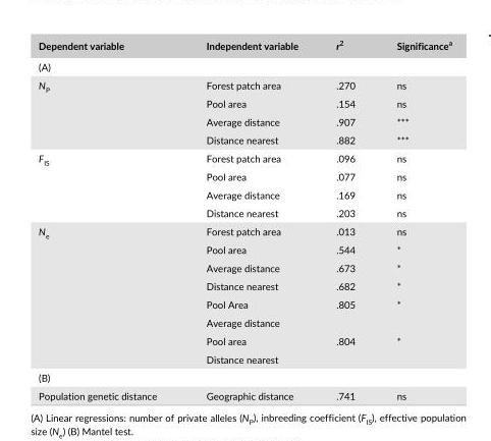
<table><thead><tr><td>Dependent variable</td><td>Independent variable</td><td>r<sup>2</sup></td><td>Significance<sup>a</sup></td></tr></thead><tbody><tr><td colspan="4">(A)</td></tr><tr><td rowspan="4">N<sub>P</sub></td><td>Forest patch area</td><td>.270</td><td>ns</td></tr><tr><td>Pool area</td><td>.154</td><td>ns</td></tr><tr><td>Average distance</td><td>.907</td><td>***</td></tr><tr><td>Distance nearest</td><td>.882</td><td>***</td></tr><tr><td rowspan="4">F<sub>IS</sub></td><td>Forest patch area</td><td>.096</td><td>ns</td></tr><tr><td>Pool area</td><td>.077</td><td>ns</td></tr><tr><td>Average distance</td><td>.169</td><td>ns</td></tr><tr><td>Distance nearest</td><td>.203</td><td>ns</td></tr><tr><td rowspan="8">N<sub>e</sub></td><td>Forest patch area</td><td>.013</td><td>ns</td></tr><tr><td>Pool area</td><td>.544</td><td>*</td></tr><tr><td>Average distance</td><td>.673</td><td>*</td></tr><tr><td>Distance nearest</td><td>.682</td><td>*</td></tr><tr><td>Pool Area</td><td>.805</td><td>*</td></tr><tr><td>Average distance</td><td></td><td></td></tr><tr><td>Pool area</td><td>.804</td><td>*</td></tr><tr><td>Distance nearest</td><td></td><td></td></tr><tr><td colspan="4">(B)</td></tr><tr><td>Population genetic distance</td><td>Geographic distance</td><td>.741</td><td>ns</td></tr></tbody></table>